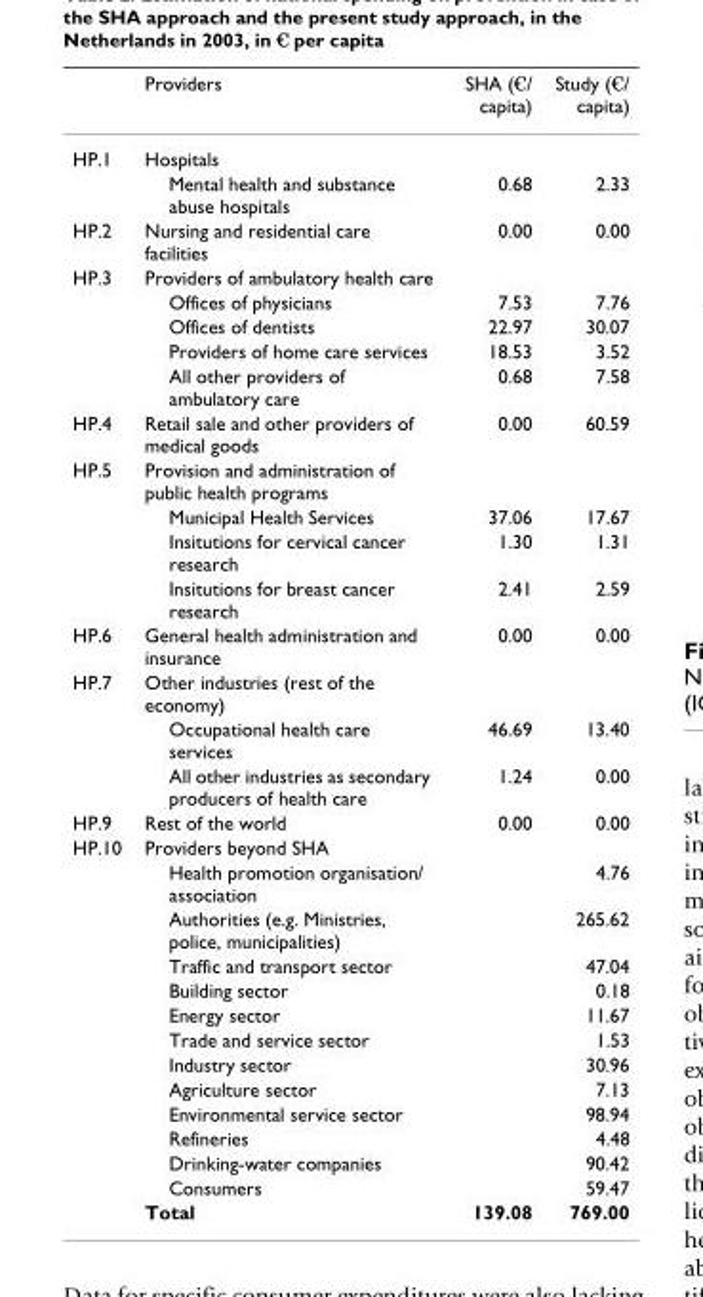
<table><thead><tr><td></td><td>Providers</td><td>SHA (€/ capita)</td><td>Study (€/ capita)</td></tr></thead><tbody><tr><td rowspan="2">HP.1</td><td>Hospitals</td><td></td><td></td></tr><tr><td>Mental health and substance abuse hospitals</td><td>0.68</td><td>2.33</td></tr><tr><td>HP.2</td><td>Nursing and residential care facilities</td><td>0.00</td><td>0.00</td></tr><tr><td rowspan="5">HP.3</td><td>Providers of ambulatory health care</td><td></td><td></td></tr><tr><td>Offices of physicians</td><td>7.53</td><td>7.76</td></tr><tr><td>Offices of dentists</td><td>22.97</td><td>30.07</td></tr><tr><td>Providers of home care services</td><td>18.53</td><td>3.52</td></tr><tr><td>All other providers of ambulatory care</td><td>0.68</td><td>7.58</td></tr><tr><td>HP.4</td><td>Retail sale and other providers of medical goods</td><td>0.00</td><td>60.59</td></tr><tr><td rowspan="4">HP.5</td><td>Provision and administration of public health programs</td><td></td><td></td></tr><tr><td>Municipal Health Services</td><td>37.06</td><td>17.67</td></tr><tr><td>Insitutions for cervical cancer research</td><td>1.30</td><td>1.31</td></tr><tr><td>Insitutions for breast cancer research</td><td>2.41</td><td>2.59</td></tr><tr><td>HP.6</td><td>General health administration and insurance</td><td>0.00</td><td>0.00</td></tr><tr><td rowspan="3">HP.7</td><td>Other industries (rest of the economy)</td><td></td><td></td></tr><tr><td>Occupational health care services</td><td>46.69</td><td>13.40</td></tr><tr><td>All other industries as secondary producers of health care</td><td>1.24</td><td>0.00</td></tr><tr><td>HP.9</td><td>Rest of the world</td><td>0.00</td><td>0.00</td></tr><tr><td rowspan="14">HP.10</td><td>Providers beyond SHA</td><td></td><td></td></tr><tr><td>Health promotion organisation/ association</td><td></td><td>4.76</td></tr><tr><td>Authorities (e.g. Ministries, police, municipalities)</td><td></td><td>265.62</td></tr><tr><td>Traffic and transport sector</td><td></td><td>47.04</td></tr><tr><td>Building sector</td><td></td><td>0.18</td></tr><tr><td>Energy sector</td><td></td><td>11.67</td></tr><tr><td>Trade and service sector</td><td></td><td>1.53</td></tr><tr><td>Industry sector</td><td></td><td>30.96</td></tr><tr><td>Agriculture sector</td><td></td><td>7.13</td></tr><tr><td>Environmental service sector</td><td></td><td>98.94</td></tr><tr><td>Refineries</td><td></td><td>4.48</td></tr><tr><td>Drinking-water companies</td><td></td><td>90.42</td></tr><tr><td>Consumers</td><td></td><td>59.47</td></tr><tr><td>Total</td><td>139.08</td><td>769.00</td></tr></tbody></table>